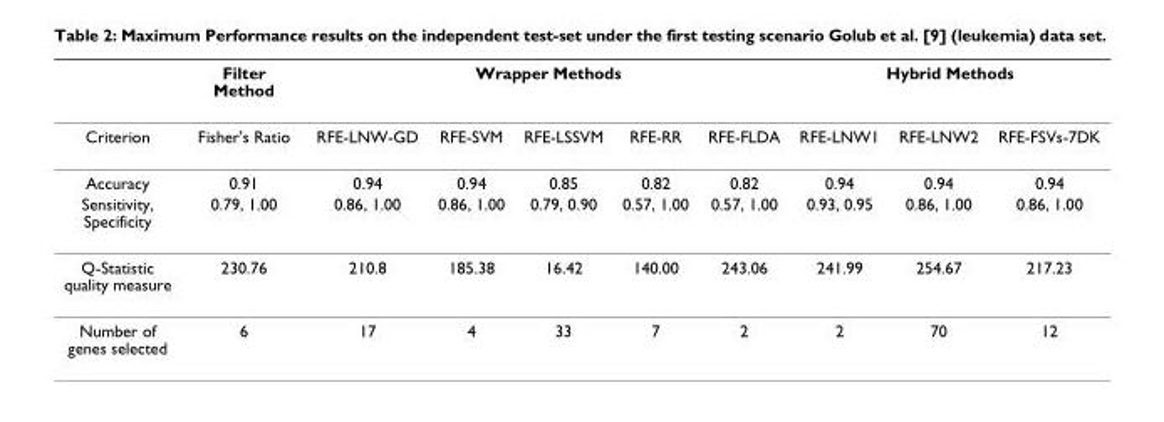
<table><thead><tr><td rowspan="2">Criterion</td><td rowspan="2">Filter Method Fisher&#x27;s Ratio</td><td colspan="5">Wrapper Methods</td><td colspan="3">Hybrid Methods</td></tr><tr><td>RFE-LNW-GD</td><td>RFE-SVM</td><td>RFE-LSSVM</td><td>RFE-RR</td><td>RFE-FLDA</td><td>RFE-LNW1</td><td>RFE-LNW2</td><td>RFE-FSVs-7DK</td></tr></thead><tbody><tr><td>Accuracy</td><td>0.91</td><td>0.94</td><td>0.94</td><td>0.85</td><td>0.82</td><td>0.82</td><td>0.94</td><td>0.94</td><td>0.94</td></tr><tr><td>Sensitivity, Specificity</td><td>0.79, 1.00</td><td>0.86, 1.00</td><td>0.86, 1.00</td><td>0.79, 0.90</td><td>0.57, 1.00</td><td>0.57, 1.00</td><td>0.93, 0.95</td><td>0.86, 1.00</td><td>0.86, 1.00</td></tr><tr><td>Q-Statistic quality measure</td><td>230.76</td><td>210.8</td><td>185.38</td><td>16.42</td><td>140.00</td><td>243.06</td><td>241.99</td><td>254.67</td><td>217.23</td></tr><tr><td>Number of genes selected</td><td>6</td><td>17</td><td>4</td><td>33</td><td>7</td><td>2</td><td>2</td><td>70</td><td>12</td></tr></tbody></table>